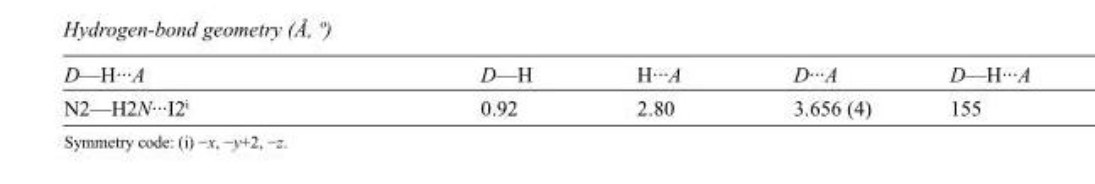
<table><tbody><tr><td>D—H···A</td><td>D—H</td><td>H···A</td><td>D···A</td><td>D—H···A</td></tr><tr><td>N2—H2N···I2<sup>i</sup></td><td>0.92</td><td>2.80</td><td>3.656 (4)</td><td>155</td></tr></tbody></table>